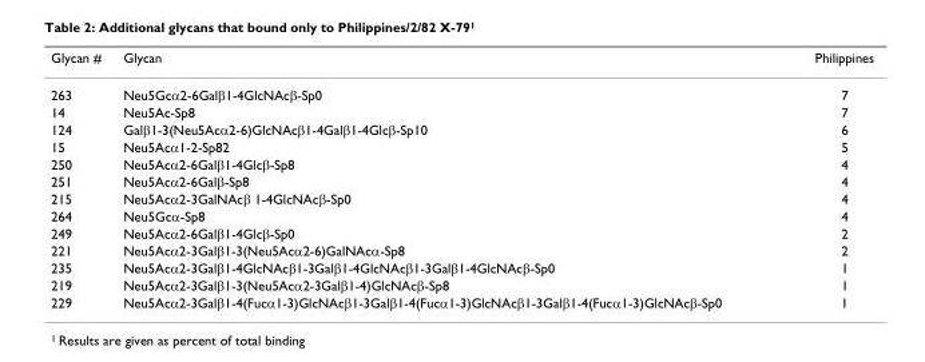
<table><thead><tr><td>Glycan #</td><td>Glycan</td><td>Philippines</td></tr></thead><tbody><tr><td>263</td><td>Neu5Gcα2-6Galβ1-4GlcNAcβ-Sp0</td><td>7</td></tr><tr><td>14</td><td>Neu5Ac-Sp8</td><td>7</td></tr><tr><td>124</td><td>Galβ1-3(Neu5Acα2-6)GlcNAcβ1-4Galβ1-4Glcβ-Sp10</td><td>6</td></tr><tr><td>15</td><td>Neu5Acα1-2-Sp82</td><td>5</td></tr><tr><td>250</td><td>Neu5Acα2-6Galβ1-4Glcβ-Sp8</td><td>4</td></tr><tr><td>251</td><td>Neu5Acα2-6Galβ-Sp8</td><td>4</td></tr><tr><td>215</td><td>Neu5Acα2-3GalNAcβ 1-4GlcNAcβ-Sp0</td><td>4</td></tr><tr><td>264</td><td>Neu5Gcα-Sp8</td><td>4</td></tr><tr><td>249</td><td>Neu5Acα2-6Galβ1-4Glcβ-Sp0</td><td>2</td></tr><tr><td>221</td><td>Neu5Acα2-3Galβ1-3(Neu5Acα2-6)GalNAcα-Sp8</td><td>2</td></tr><tr><td>235</td><td>Neu5Acα2-3Galβ1-4GlcNAcβ1-3Galβ1-4GlcNAcβ1-3Galβ1-4GlcNAcβ-Sp0</td><td>1</td></tr><tr><td>219</td><td>Neu5Acα2-3Galβ1-3(Neu5Acα2-3Galβ1-4)GlcNAcβ-Sp8</td><td>1</td></tr><tr><td>229</td><td>Neu5Acα2-3Galβ1-4(Fucα1-3)GlcNAcβ1-3Galβ1-4(Fucα1-3)GlcNAcβ1-3Galβ1-4(Fucα1-3)GlcNAcβ-Sp0</td><td>1</td></tr></tbody></table>